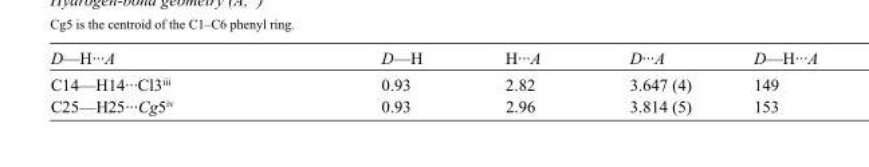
<table><tbody><tr><td>D—H···A</td><td>D—H</td><td>H···A</td><td>D···A</td><td>D—H···A</td></tr><tr><td>C14—H14···Cl3<sup>iii</sup></td><td>0.93</td><td>2.82</td><td>3.647 (4)</td><td>149</td></tr><tr><td>C25—H25···Cg5<sup>iv</sup></td><td>0.93</td><td>2.96</td><td>3.814 (5)</td><td>153</td></tr></tbody></table>